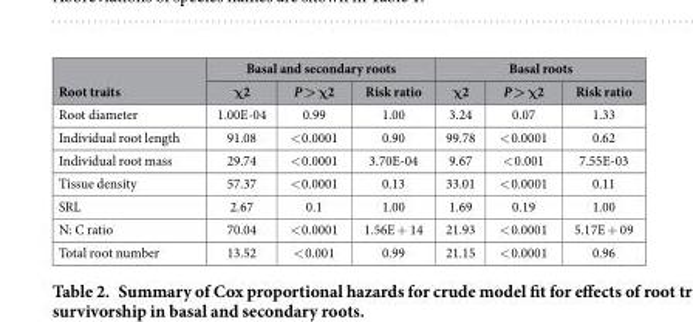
<table><thead><tr><td rowspan="2">Root traits</td><td colspan="3">Basal and secondary roots</td><td colspan="3">Basal roots</td></tr><tr><td>χ2</td><td>P &gt; χ2</td><td>Risk ratio</td><td>χ2</td><td>P &gt; χ2</td><td>Risk ratio</td></tr></thead><tbody><tr><td>Root diameter</td><td>1.00E-04</td><td>0.99</td><td>1.00</td><td>3.24</td><td>0.07</td><td>1.33</td></tr><tr><td>Individual root length</td><td>91.08</td><td>&lt; 0.0001</td><td>0.90</td><td>99.78</td><td>&lt; 0.0001</td><td>0.62</td></tr><tr><td>Individual root mass</td><td>29.74</td><td>&lt; 0.0001</td><td>3.70E-04</td><td>9.67</td><td>&lt; 0.001</td><td>7.55E-03</td></tr><tr><td>Tissue density</td><td>57.37</td><td>&lt; 0.0001</td><td>0.13</td><td>33.01</td><td>&lt; 0.0001</td><td>0.11</td></tr><tr><td>SRL</td><td>2.67</td><td>0.1</td><td>1.00</td><td>1.69</td><td>0.19</td><td>1.00</td></tr><tr><td>N: C ratio</td><td>70.04</td><td>&lt; 0.0001</td><td>1.56E + 14</td><td>21.93</td><td>&lt; 0.0001</td><td>5.17E + 09</td></tr><tr><td>Total root number</td><td>13.52</td><td>&lt; 0.001</td><td>0.99</td><td>21.15</td><td>&lt; 0.0001</td><td>0.96</td></tr></tbody></table>